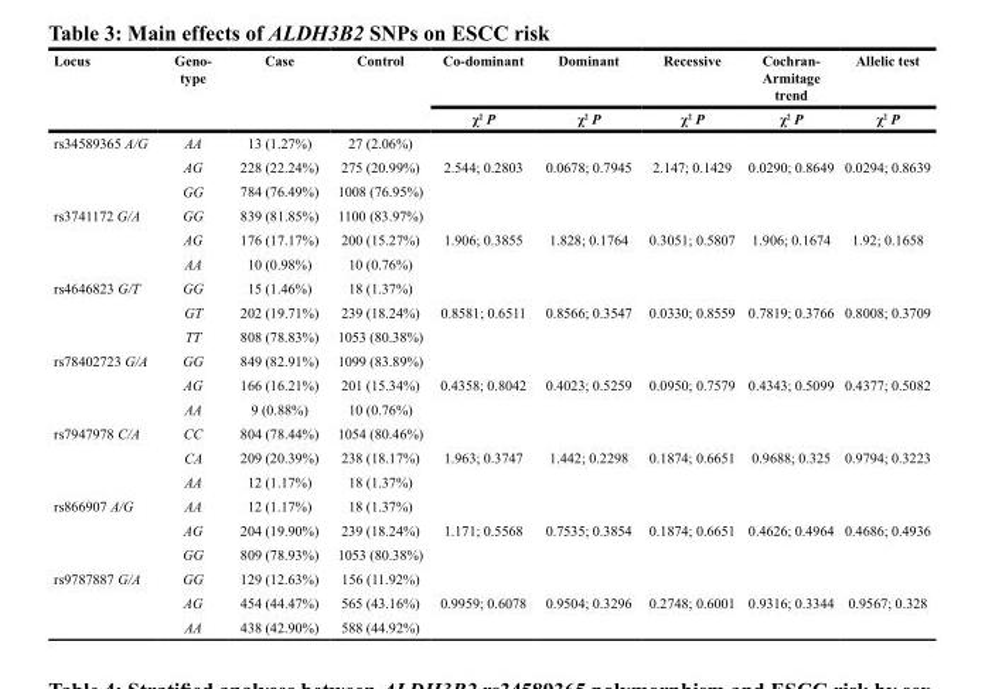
<table><thead><tr><td rowspan="2">Locus</td><td rowspan="2">Geno- type</td><td rowspan="2">Case</td><td rowspan="2">Control</td><td rowspan="2">Co-dominant χ<sup>2</sup> P</td><td rowspan="2">Dominant χ<sup>2</sup> P</td><td rowspan="2">Recessive χ<sup>2</sup> P</td><td rowspan="2">Cochran- Armitage trend χ<sup>2</sup> P</td><td rowspan="2">Allelic test χ<sup>2</sup> P</td></tr><tr></tr></thead><tbody><tr><td rowspan="3">rs34589365 A/G</td><td>AA</td><td>13 (1.27%)</td><td>27 (2.06%)</td><td></td><td></td><td></td><td></td><td></td></tr><tr><td>AG</td><td>228 (22.24%)</td><td>275 (20.99%)</td><td>2.544; 0.2803</td><td>0.0678; 0.7945</td><td>2.147; 0.1429</td><td>0.0290; 0.8649</td><td>0.0294; 0.8639</td></tr><tr><td>GG</td><td>784 (76.49%)</td><td>1008 (76.95%)</td><td></td><td></td><td></td><td></td><td></td></tr><tr><td rowspan="3">rs3741172 G/A</td><td>GG</td><td>839 (81.85%)</td><td>1100 (83.97%)</td><td></td><td></td><td></td><td></td><td></td></tr><tr><td>AG</td><td>176 (17.17%)</td><td>200 (15.27%)</td><td>1.906; 0.3855</td><td>1.828; 0.1764</td><td>0.3051; 0.5807</td><td>1.906; 0.1674</td><td>1.92; 0.1658</td></tr><tr><td>AA</td><td>10 (0.98%)</td><td>10 (0.76%)</td><td></td><td></td><td></td><td></td><td></td></tr><tr><td rowspan="3">rs4646823 G/T</td><td>GG</td><td>15 (1.46%)</td><td>18 (1.37%)</td><td></td><td></td><td></td><td></td><td></td></tr><tr><td>GT</td><td>202 (19.71%)</td><td>239 (18.24%)</td><td>0.8581; 0.6511</td><td>0.8566; 0.3547</td><td>0.0330; 0.8559</td><td>0.7819; 0.3766</td><td>0.8008; 0.3709</td></tr><tr><td>TT</td><td>808 (78.83%)</td><td>1053 (80.38%)</td><td></td><td></td><td></td><td></td><td></td></tr><tr><td rowspan="3">rs78402723 G/A</td><td>GG</td><td>849 (82.91%)</td><td>1099 (83.89%)</td><td></td><td></td><td></td><td></td><td></td></tr><tr><td>AG</td><td>166 (16.21%)</td><td>201 (15.34%)</td><td>0.4358; 0.8042</td><td>0.4023; 0.5259</td><td>0.0950; 0.7579</td><td>0.4343; 0.5099</td><td>0.4377; 0.5082</td></tr><tr><td>AA</td><td>9 (0.88%)</td><td>10 (0.76%)</td><td></td><td></td><td></td><td></td><td></td></tr><tr><td rowspan="3">rs7947978 C/A</td><td>CC</td><td>804 (78.44%)</td><td>1054 (80.46%)</td><td></td><td></td><td></td><td></td><td></td></tr><tr><td>CA</td><td>209 (20.39%)</td><td>238 (18.17%)</td><td>1.963; 0.3747</td><td>1.442; 0.2298</td><td>0.1874; 0.6651</td><td>0.9688; 0.325</td><td>0.9794; 0.3223</td></tr><tr><td>AA</td><td>12 (1.17%)</td><td>18 (1.37%)</td><td></td><td></td><td></td><td></td><td></td></tr><tr><td rowspan="3">rs866907 A/G</td><td>AA</td><td>12 (1.17%)</td><td>18 (1.37%)</td><td></td><td></td><td></td><td></td><td></td></tr><tr><td>AG</td><td>204 (19.90%)</td><td>239 (18.24%)</td><td>1.171; 0.5568</td><td>0.7535; 0.3854</td><td>0.1874; 0.6651</td><td>0.4626; 0.4964</td><td>0.4686; 0.4936</td></tr><tr><td>GG</td><td>809 (78.93%)</td><td>1053 (80.38%)</td><td></td><td></td><td></td><td></td><td></td></tr><tr><td rowspan="3">rs9787887 G/A</td><td>GG</td><td>129 (12.63%)</td><td>156 (11.92%)</td><td></td><td></td><td></td><td></td><td></td></tr><tr><td>AG</td><td>454 (44.47%)</td><td>565 (43.16%)</td><td>0.9959; 0.6078</td><td>0.9504; 0.3296</td><td>0.2748; 0.6001</td><td>0.9316; 0.3344</td><td>0.9567; 0.328</td></tr><tr><td>AA</td><td>438 (42.90%)</td><td>588 (44.92%)</td><td></td><td></td><td></td><td></td><td></td></tr></tbody></table>